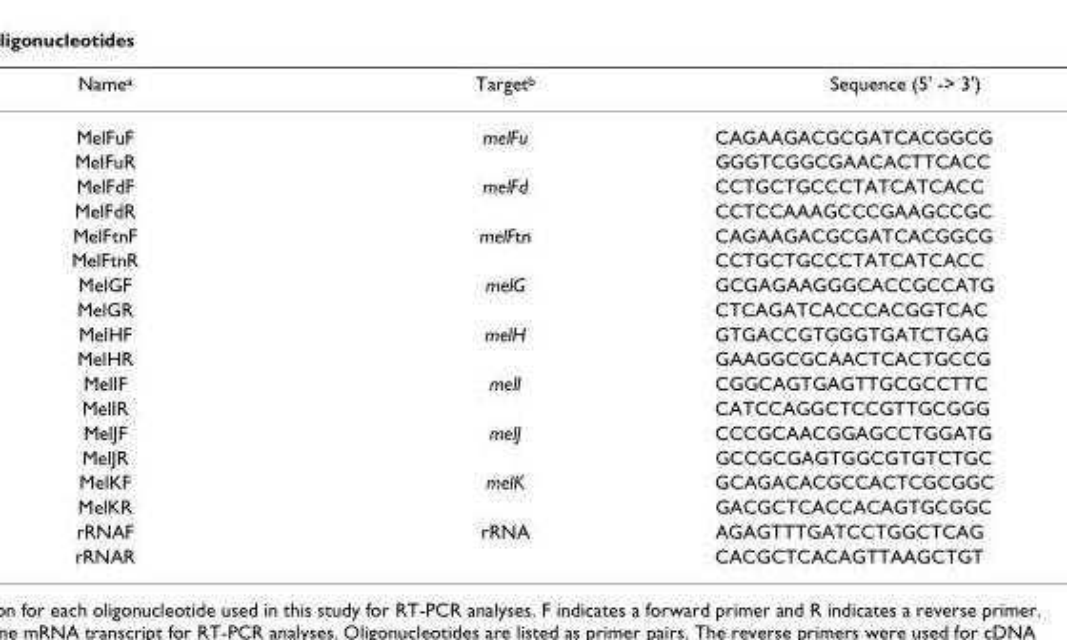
<table><thead><tr><td>Namea</td><td>Targetb</td><td>Sequence (5&#x27; -&gt; 3&#x27;)</td></tr></thead><tbody><tr><td>MelFuF</td><td>melFu</td><td>CAGAAGACGCGATCACGGCG</td></tr><tr><td>MelFuR</td><td></td><td>GGGTCGGCGAACACTTCACC</td></tr><tr><td>MelFdF</td><td>melFd</td><td>CCTGCTGCCCTATCATCACC</td></tr><tr><td>MelFdR</td><td></td><td>CCTCCAAAGCCCGAAGCCGC</td></tr><tr><td>MelFtnF</td><td>melFtn</td><td>CAGAAGACGCGATCACGGCG</td></tr><tr><td>MelFtnR</td><td></td><td>CCTGCTGCCCTATCATCACC</td></tr><tr><td>MelGF</td><td>melG</td><td>GCGAGAAGGGCACCGCCATG</td></tr><tr><td>MelGR</td><td></td><td>CTCAGATCACCCACGGTCAC</td></tr><tr><td>MelHF</td><td>melH</td><td>GTGACCGTGGGTGATCTGAG</td></tr><tr><td>MelHR</td><td></td><td>GAAGGCGCAACTCACTGCCG</td></tr><tr><td>MelIF</td><td>melI</td><td>CGGCAGTGAGTTGCGCCTTC</td></tr><tr><td>MelIR</td><td></td><td>CATCCAGGCTCCGTTGCGGG</td></tr><tr><td>MelJF</td><td>melJ</td><td>CCCGCAACGGAGCCTGGATG</td></tr><tr><td>MelJR</td><td></td><td>GCCGCGAGTGGCGTGTCTGC</td></tr><tr><td>MelKF</td><td>melK</td><td>GCAGACACGCCACTCGCGGC</td></tr><tr><td>MelKR</td><td></td><td>GACGCTCACCACAGTGCGGC</td></tr><tr><td>rRNAF</td><td>rRNA</td><td>AGAGTTTGATCCTGGCTCAG</td></tr><tr><td>rRNAR</td><td></td><td>CACGCTCACAGTTAAGCTGT</td></tr></tbody></table>